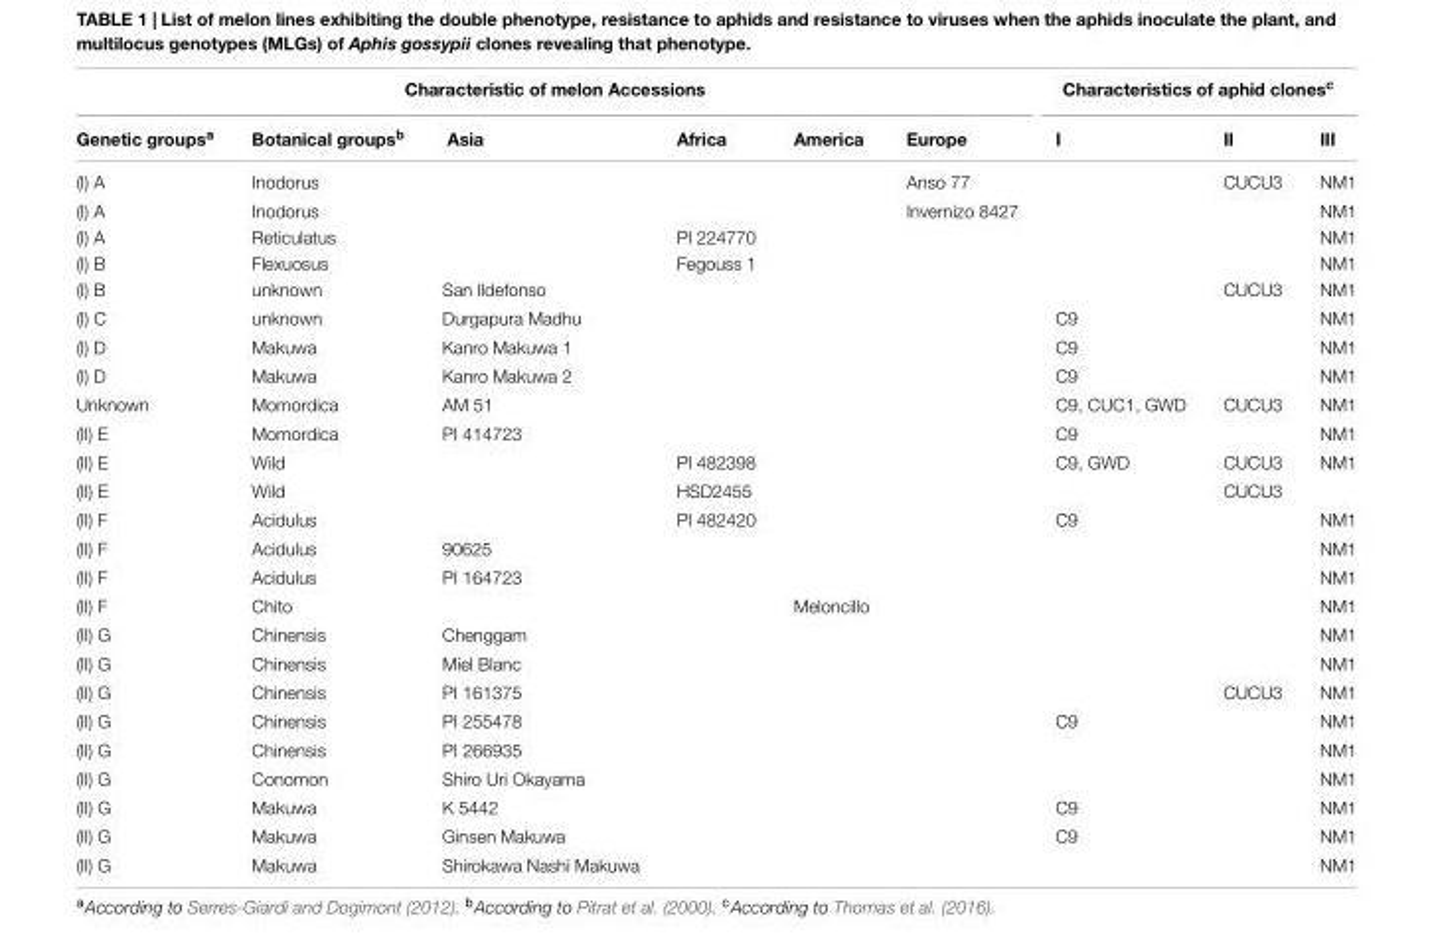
<table><thead><tr><td colspan="6">Characteristic of melon Accessions</td><td colspan="3">Characteristics of aphid clones<sup>c</sup></td></tr><tr><td>Genetic groups<sup>a</sup></td><td>Botanical groups<sup>b</sup></td><td>Asia</td><td>Africa</td><td>America</td><td>Europe</td><td>I</td><td>II</td><td>III</td></tr></thead><tbody><tr><td>(I) A</td><td>Inodorus</td><td></td><td></td><td></td><td>Anso 77</td><td></td><td>CUCU3</td><td>NM1</td></tr><tr><td>(I) A</td><td>Inodorus</td><td></td><td></td><td></td><td>Invernizo 8427</td><td></td><td></td><td>NM1</td></tr><tr><td>(I) A</td><td>Reticulatus</td><td></td><td>PI 224770</td><td></td><td></td><td></td><td></td><td>NM1</td></tr><tr><td>(I) B</td><td>Flexuosus</td><td></td><td>Fegouss 1</td><td></td><td></td><td></td><td></td><td>NM1</td></tr><tr><td>(I) B</td><td>unknown</td><td>San Ildefonso</td><td></td><td></td><td></td><td></td><td>CUCU3</td><td>NM1</td></tr><tr><td>(I) C</td><td>unknown</td><td>Durgapura Madhu</td><td></td><td></td><td></td><td>C9</td><td></td><td>NM1</td></tr><tr><td>(I) D</td><td>Makuwa</td><td>Kanro Makuwa 1</td><td></td><td></td><td></td><td>C9</td><td></td><td>NM1</td></tr><tr><td>(I) D</td><td>Makuwa</td><td>Kanro Makuwa 2</td><td></td><td></td><td></td><td>C9</td><td></td><td>NM1</td></tr><tr><td>Unknown</td><td>Momordica</td><td>AM 51</td><td></td><td></td><td></td><td>C9, CUC1, GWD</td><td>CUCU3</td><td>NM1</td></tr><tr><td>(II) E</td><td>Momordica</td><td>PI 414723</td><td></td><td></td><td></td><td>C9</td><td></td><td>NM1</td></tr><tr><td>(II) E</td><td>Wild</td><td></td><td>PI 482398</td><td></td><td></td><td>C9, GWD</td><td>CUCU3</td><td>NM1</td></tr><tr><td>(II) E</td><td>Wild</td><td></td><td>HSD2455</td><td></td><td></td><td></td><td>CUCU3</td><td></td></tr><tr><td>(II) F</td><td>Acidulus</td><td></td><td>PI 482420</td><td></td><td></td><td>C9</td><td></td><td>NM1</td></tr><tr><td>(II) F</td><td>Acidulus</td><td>90625</td><td></td><td></td><td></td><td></td><td></td><td>NM1</td></tr><tr><td>(II) F</td><td>Acidulus</td><td>PI 164723</td><td></td><td></td><td></td><td></td><td></td><td>NM1</td></tr><tr><td>(II) F</td><td>Chito</td><td></td><td></td><td>Meloncillo</td><td></td><td></td><td></td><td>NM1</td></tr><tr><td>(II) G</td><td>Chinensis</td><td>Chenggam</td><td></td><td></td><td></td><td></td><td></td><td>NM1</td></tr><tr><td>(II) G</td><td>Chinensis</td><td>Miel Blanc</td><td></td><td></td><td></td><td></td><td></td><td>NM1</td></tr><tr><td>(II) G</td><td>Chinensis</td><td>PI 161375</td><td></td><td></td><td></td><td></td><td>CUCU3</td><td>NM1</td></tr><tr><td>(II) G</td><td>Chinensis</td><td>PI 255478</td><td></td><td></td><td></td><td>C9</td><td></td><td>NM1</td></tr><tr><td>(II) G</td><td>Chinensis</td><td>PI 266935</td><td></td><td></td><td></td><td></td><td></td><td>NM1</td></tr><tr><td>(II) G</td><td>Conomon</td><td>Shiro Uri Okayama</td><td></td><td></td><td></td><td></td><td></td><td>NM1</td></tr><tr><td>(II) G</td><td>Makuwa</td><td>K 5442</td><td></td><td></td><td></td><td>C9</td><td></td><td>NM1</td></tr><tr><td>(II) G</td><td>Makuwa</td><td>Ginsen Makuwa</td><td></td><td></td><td></td><td>C9</td><td></td><td>NM1</td></tr><tr><td>(II) G</td><td>Makuwa</td><td>Shirokawa Nashi Makuwa</td><td></td><td></td><td></td><td></td><td></td><td>NM1</td></tr></tbody></table>